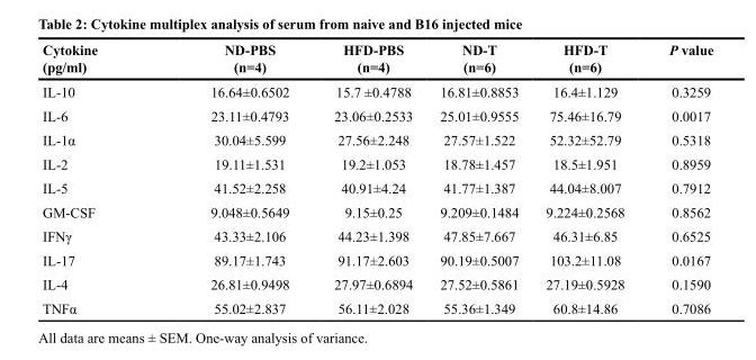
<table><thead><tr><td>Cytokine (pg/ml)</td><td>ND-PBS (n=4)</td><td>HFD-PBS (n=4)</td><td>ND-T (n=6)</td><td>HFD-T (n=6)</td><td>P value</td></tr></thead><tbody><tr><td>IL-10</td><td>16.64±0.6502</td><td>15.7 ±0.4788</td><td>16.81±0.8853</td><td>16.4±1.129</td><td>0.3259</td></tr><tr><td>IL-6</td><td>23.11±0.4793</td><td>23.06±0.2533</td><td>25.01±0.9555</td><td>75.46±16.79</td><td>0.0017</td></tr><tr><td>IL-1α</td><td>30.04±5.599</td><td>27.56±2.248</td><td>27.57±1.522</td><td>52.32±52.79</td><td>0.5318</td></tr><tr><td>IL-2</td><td>19.11±1.531</td><td>19.2±1.053</td><td>18.78±1.457</td><td>18.5±1.951</td><td>0.8959</td></tr><tr><td>IL-5</td><td>41.52±2.258</td><td>40.91±4.24</td><td>41.77±1.387</td><td>44.04±8.007</td><td>0.7912</td></tr><tr><td>GM-CSF</td><td>9.048±0.5649</td><td>9.15±0.25</td><td>9.209±0.1484</td><td>9.224±0.2568</td><td>0.8562</td></tr><tr><td>IFNγ</td><td>43.33±2.106</td><td>44.23±1.398</td><td>47.85±7.667</td><td>46.31±6.85</td><td>0.6525</td></tr><tr><td>IL-17</td><td>89.17±1.743</td><td>91.17±2.603</td><td>90.19±0.5007</td><td>103.2±11.08</td><td>0.0167</td></tr><tr><td>IL-4</td><td>26.81±0.9498</td><td>27.97±0.6894</td><td>27.52±0.5861</td><td>27.19±0.5928</td><td>0.1590</td></tr><tr><td>TNFα</td><td>55.02±2.837</td><td>56.11±2.028</td><td>55.36±1.349</td><td>60.8±14.86</td><td>0.7086</td></tr></tbody></table>